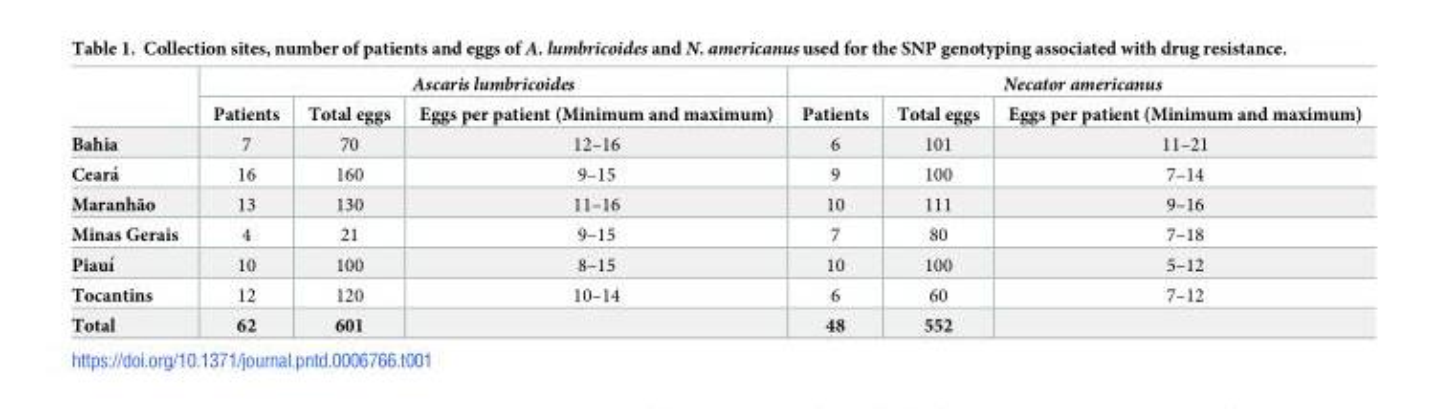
<table><thead><tr><td rowspan="2"></td><td colspan="3">Ascaris lumbricoides</td><td colspan="3">Necator americanus</td></tr><tr><td>Patients</td><td>Total eggs</td><td>Eggs per patient (Minimum and maximum)</td><td>Patients</td><td>Total eggs</td><td>Eggs per patient (Minimum and maximum)</td></tr></thead><tbody><tr><td>Bahia</td><td>7</td><td>70</td><td>12–16</td><td>6</td><td>101</td><td>11–21</td></tr><tr><td>Ceara´</td><td>16</td><td>160</td><td>9–15</td><td>9</td><td>100</td><td>7–14</td></tr><tr><td>Maranhão</td><td>13</td><td>130</td><td>11–16</td><td>10</td><td>111</td><td>9–16</td></tr><tr><td>Minas Gerais</td><td>4</td><td>21</td><td>9–15</td><td>7</td><td>80</td><td>7–18</td></tr><tr><td>Piauı´</td><td>10</td><td>100</td><td>8–15</td><td>10</td><td>100</td><td>5–12</td></tr><tr><td>Tocantins</td><td>12</td><td>120</td><td>10–14</td><td>6</td><td>60</td><td>7–12</td></tr><tr><td>Total</td><td>62</td><td>601</td><td></td><td>48</td><td>552</td><td></td></tr></tbody></table>